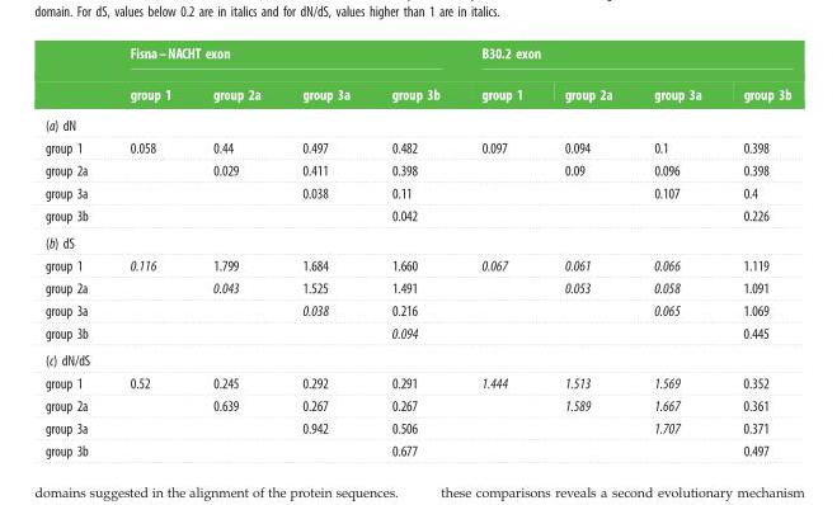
<table><thead><tr><td rowspan="2"></td><td colspan="4">Fisna–NACHT exon</td><td colspan="4">B30.2 exon</td></tr><tr><td>group 1</td><td>group 2a</td><td>group 3a</td><td>group 3b</td><td>group 1</td><td>group 2a</td><td>group 3a</td><td>group 3b</td></tr></thead><tbody><tr><td colspan="9">(a) dN</td></tr><tr><td>group 1</td><td>0.058</td><td>0.44</td><td>0.497</td><td>0.482</td><td>0.097</td><td>0.094</td><td>0.1</td><td>0.398</td></tr><tr><td>group 2a</td><td></td><td>0.029</td><td>0.411</td><td>0.398</td><td></td><td>0.09</td><td>0.096</td><td>0.398</td></tr><tr><td>group 3a</td><td></td><td></td><td>0.038</td><td>0.11</td><td></td><td></td><td>0.107</td><td>0.4</td></tr><tr><td>group 3b</td><td></td><td></td><td></td><td>0.042</td><td></td><td></td><td></td><td>0.226</td></tr><tr><td colspan="9">(b) dS</td></tr><tr><td>group 1</td><td>0.116</td><td>1.799</td><td>1.684</td><td>1.660</td><td>0.067</td><td>0.061</td><td>0.066</td><td>1.119</td></tr><tr><td>group 2a</td><td></td><td>0.043</td><td>1.525</td><td>1.491</td><td></td><td>0.053</td><td>0.058</td><td>1.091</td></tr><tr><td>group 3a</td><td></td><td></td><td>0.038</td><td>0.216</td><td></td><td></td><td>0.065</td><td>1.069</td></tr><tr><td>group 3b</td><td></td><td></td><td></td><td>0.094</td><td></td><td></td><td></td><td>0.445</td></tr><tr><td colspan="9">(c) dN/dS</td></tr><tr><td>group 1</td><td>0.52</td><td>0.245</td><td>0.292</td><td>0.291</td><td>1.444</td><td>1.513</td><td>1.569</td><td>0.352</td></tr><tr><td>group 2a</td><td></td><td>0.639</td><td>0.267</td><td>0.267</td><td></td><td>1.589</td><td>1.667</td><td>0.361</td></tr><tr><td>group 3a</td><td></td><td></td><td>0.942</td><td>0.506</td><td></td><td></td><td>1.707</td><td>0.371</td></tr><tr><td>group 3b</td><td></td><td></td><td></td><td>0.677</td><td></td><td></td><td></td><td>0.497</td></tr></tbody></table>